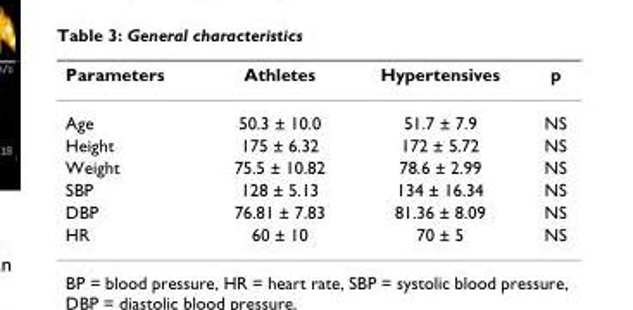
<table><thead><tr><td>Parameters</td><td>Athletes</td><td>Hypertensives</td><td>p</td></tr></thead><tbody><tr><td>Age</td><td>50.3 ± 10.0</td><td>51.7 ± 7.9</td><td>NS</td></tr><tr><td>Height</td><td>175 ± 6.32</td><td>172 ± 5.72</td><td>NS</td></tr><tr><td>Weight</td><td>75.5 ± 10.82</td><td>78.6 ± 2.99</td><td>NS</td></tr><tr><td>SBP</td><td>128 ± 5.13</td><td>134 ± 16.34</td><td>NS</td></tr><tr><td>DBP</td><td>76.81 ± 7.83</td><td>81.36 ± 8.09</td><td>NS</td></tr><tr><td>HR</td><td>60 ± 10</td><td>70 ± 5</td><td>NS</td></tr></tbody></table>